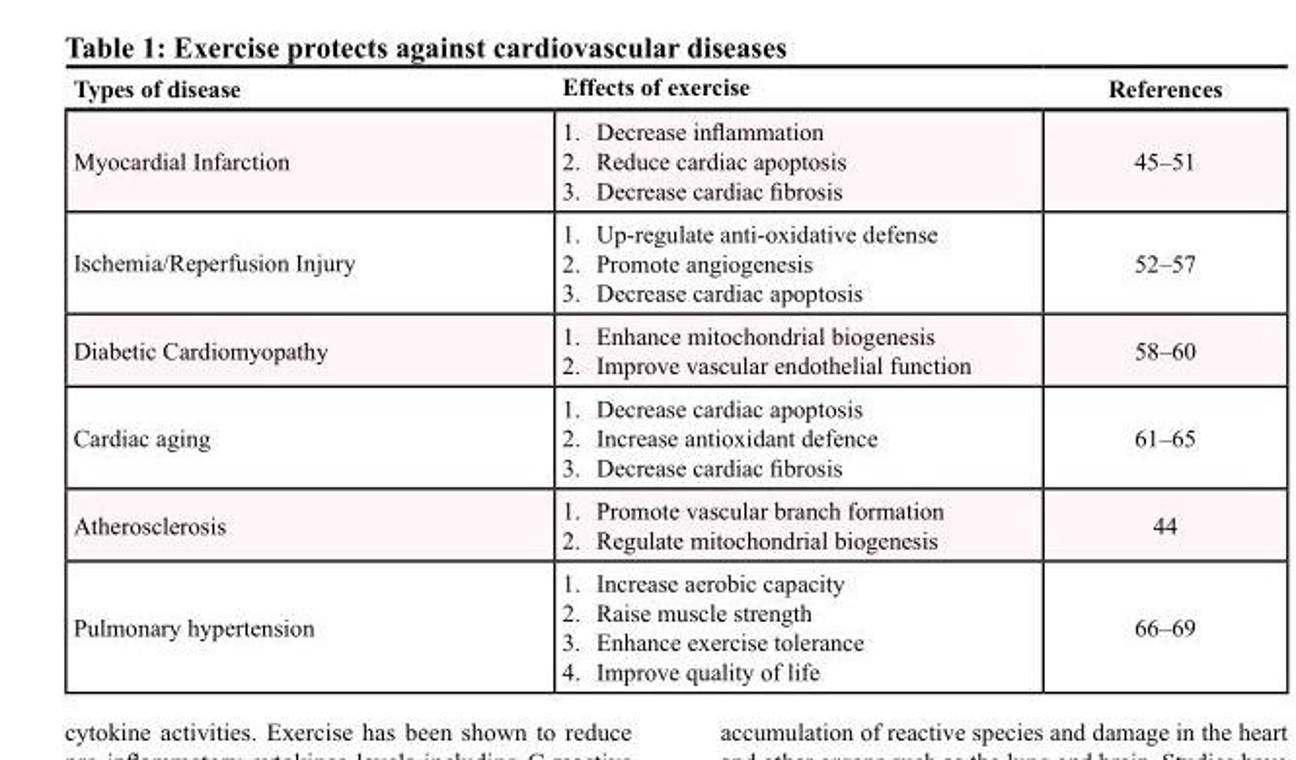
<table><thead><tr><td>Types of disease</td><td>Effects of exercise</td><td>References</td></tr></thead><tbody><tr><td>Myocardial Infarction</td><td>1. Decrease inflammation 2. Reduce cardiac apoptosis 3. Decrease cardiac fibrosis</td><td>45–51</td></tr><tr><td>Ischemia/Reperfusion Injury</td><td>1. Up-regulate anti-oxidative defense 2. Promote angiogenesis 3. Decrease cardiac apoptosis</td><td>52–57</td></tr><tr><td>Diabetic Cardiomyopathy</td><td>1. Enhance mitochondrial biogenesis 2. Improve vascular endothelial function</td><td>58–60</td></tr><tr><td>Cardiac aging</td><td>1. Decrease cardiac apoptosis 2. Increase antioxidant defence 3. Decrease cardiac fibrosis</td><td>61–65</td></tr><tr><td>Atherosclerosis</td><td>1. Promote vascular branch formation 2. Regulate mitochondrial biogenesis</td><td>44</td></tr><tr><td>Pulmonary hypertension</td><td>1. Increase aerobic capacity 2. Raise muscle strength 3. Enhance exercise tolerance 4. Improve quality of life</td><td>66–69</td></tr></tbody></table>